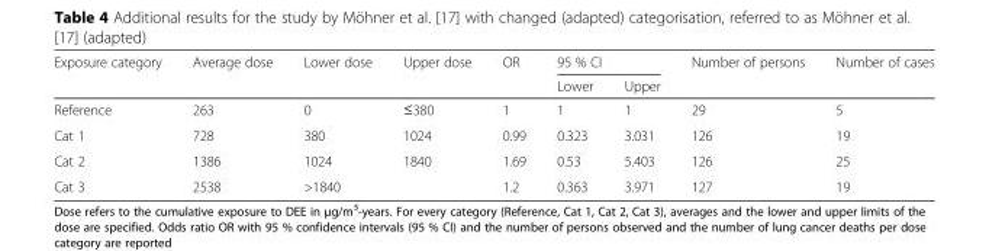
<table><thead><tr><td rowspan="2">Exposure category</td><td rowspan="2">Average dose</td><td rowspan="2">Lower dose</td><td rowspan="2">Upper dose</td><td rowspan="2">OR</td><td colspan="2">95 % CI</td><td rowspan="2">Number of persons</td><td rowspan="2">Number of cases</td></tr><tr><td>Lower</td><td>Upper</td></tr></thead><tbody><tr><td>Reference</td><td>263</td><td>0</td><td>≤380</td><td>1</td><td>1</td><td>1</td><td>29</td><td>5</td></tr><tr><td>Cat 1</td><td>728</td><td>380</td><td>1024</td><td>0.99</td><td>0.323</td><td>3.031</td><td>126</td><td>19</td></tr><tr><td>Cat 2</td><td>1386</td><td>1024</td><td>1840</td><td>1.69</td><td>0.53</td><td>5.403</td><td>126</td><td>25</td></tr><tr><td>Cat 3</td><td>2538</td><td>&gt;1840</td><td></td><td>1.2</td><td>0.363</td><td>3.971</td><td>127</td><td>19</td></tr></tbody></table>